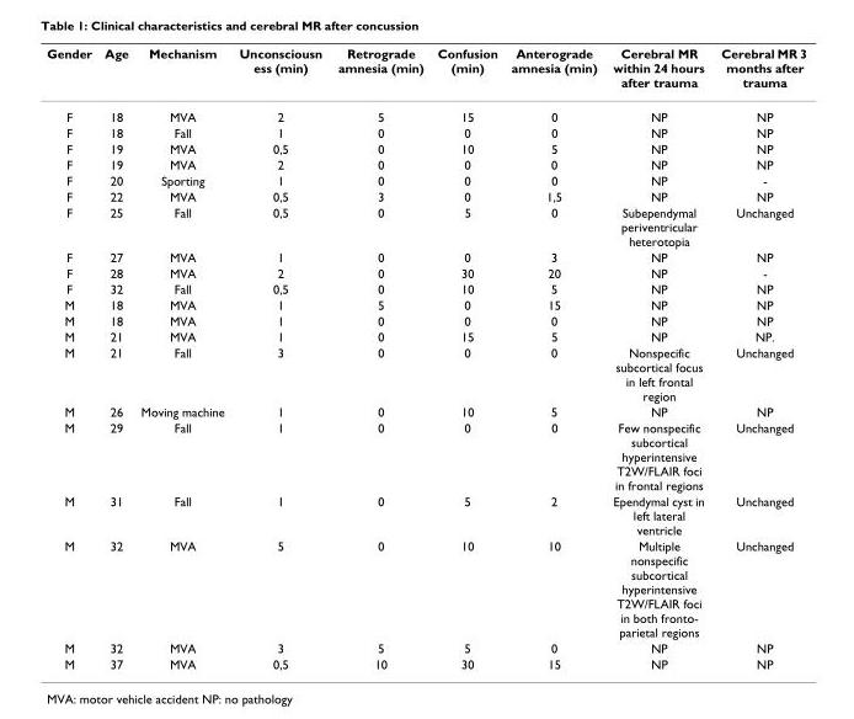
<table><thead><tr><td>Gender</td><td>Age</td><td>Mechanism</td><td>Unconsciousn ess (min)</td><td>Retrograde amnesia (min)</td><td>Confusion (min)</td><td>Anterograde amnesia (min)</td><td>Cerebral MR within 24 hours after trauma</td><td>Cerebral MR 3 months after trauma</td></tr></thead><tbody><tr><td>F</td><td>18</td><td>MVA</td><td>2</td><td>5</td><td>15</td><td>0</td><td>NP</td><td>NP</td></tr><tr><td>F</td><td>18</td><td>Fall</td><td>1</td><td>0</td><td>0</td><td>0</td><td>NP</td><td>NP</td></tr><tr><td>F</td><td>19</td><td>MVA</td><td>0,5</td><td>0</td><td>10</td><td>5</td><td>NP</td><td>NP</td></tr><tr><td>F</td><td>19</td><td>MVA</td><td>2</td><td>0</td><td>0</td><td>0</td><td>NP</td><td>NP</td></tr><tr><td>F</td><td>20</td><td>Sporting</td><td>1</td><td>0</td><td>0</td><td>0</td><td>NP</td><td>-</td></tr><tr><td>F</td><td>22</td><td>MVA</td><td>0,5</td><td>3</td><td>0</td><td>1,5</td><td>NP</td><td>NP</td></tr><tr><td>F</td><td>25</td><td>Fall</td><td>0,5</td><td>0</td><td>5</td><td>0</td><td>Subependymal periventricular heterotopia</td><td>Unchanged</td></tr><tr><td>F</td><td>27</td><td>MVA</td><td>1</td><td>0</td><td>0</td><td>3</td><td>NP</td><td>NP</td></tr><tr><td>F</td><td>28</td><td>MVA</td><td>2</td><td>0</td><td>30</td><td>20</td><td>NP</td><td>-</td></tr><tr><td>F</td><td>32</td><td>Fall</td><td>0,5</td><td>0</td><td>10</td><td>5</td><td>NP</td><td>NP</td></tr><tr><td>M</td><td>18</td><td>MVA</td><td>1</td><td>5</td><td>0</td><td>15</td><td>NP</td><td>NP</td></tr><tr><td>M</td><td>18</td><td>MVA</td><td>1</td><td>0</td><td>0</td><td>0</td><td>NP</td><td>NP</td></tr><tr><td>M</td><td>21</td><td>MVA</td><td>1</td><td>0</td><td>15</td><td>5</td><td>NP</td><td>NP.</td></tr><tr><td>M</td><td>21</td><td>Fall</td><td>3</td><td>0</td><td>0</td><td>0</td><td>Nonspecific subcortical focus in left frontal region</td><td>Unchanged</td></tr><tr><td>M</td><td>26</td><td>Moving machine</td><td>1</td><td>0</td><td>10</td><td>5</td><td>NP</td><td>NP</td></tr><tr><td>M</td><td>29</td><td>Fall</td><td>1</td><td>0</td><td>0</td><td>0</td><td>Few nonspecific subcortical hyperintensive T2W/FLAIR foci in frontal regions</td><td>Unchanged</td></tr><tr><td>M</td><td>31</td><td>Fall</td><td>1</td><td>0</td><td>5</td><td>2</td><td>Ependymal cyst in left lateral ventricle</td><td>Unchanged</td></tr><tr><td>M</td><td>32</td><td>MVA</td><td>5</td><td>0</td><td>10</td><td>10</td><td>Multiple nonspecific subcortical hyperintensive T2W/FLAIR foci in both fronto- parietal regions</td><td>Unchanged</td></tr><tr><td>M</td><td>32</td><td>MVA</td><td>3</td><td>5</td><td>5</td><td>0</td><td>NP</td><td>NP</td></tr><tr><td>M</td><td>37</td><td>MVA</td><td>0,5</td><td>10</td><td>30</td><td>15</td><td>NP</td><td>NP</td></tr></tbody></table>